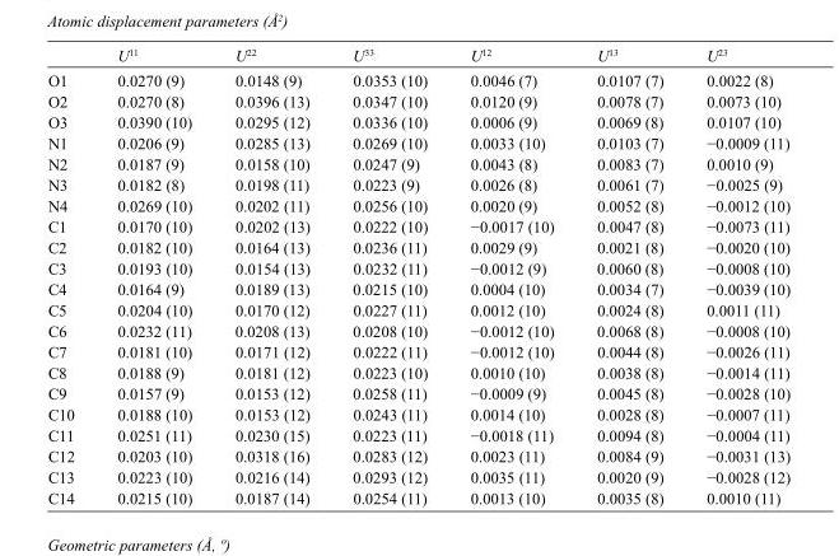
<table><thead><tr><td></td><td>U<sup>11</sup></td><td>U<sup>22</sup></td><td>U<sup>33</sup></td><td>U<sup>12</sup></td><td>U<sup>13</sup></td><td>U<sup>23</sup></td></tr></thead><tbody><tr><td>O1</td><td>0.0270 (9)</td><td>0.0148 (9)</td><td>0.0353 (10)</td><td>0.0046 (7)</td><td>0.0107 (7)</td><td>0.0022 (8)</td></tr><tr><td>O2</td><td>0.0270 (8)</td><td>0.0396 (13)</td><td>0.0347 (10)</td><td>0.0120 (9)</td><td>0.0078 (7)</td><td>0.0073 (10)</td></tr><tr><td>O3</td><td>0.0390 (10)</td><td>0.0295 (12)</td><td>0.0336 (10)</td><td>0.0006 (9)</td><td>0.0069 (8)</td><td>0.0107 (10)</td></tr><tr><td>N1</td><td>0.0206 (9)</td><td>0.0285 (13)</td><td>0.0269 (10)</td><td>0.0033 (10)</td><td>0.0103 (7)</td><td>−0.0009 (11)</td></tr><tr><td>N2</td><td>0.0187 (9)</td><td>0.0158 (10)</td><td>0.0247 (9)</td><td>0.0043 (8)</td><td>0.0083 (7)</td><td>0.0010 (9)</td></tr><tr><td>N3</td><td>0.0182 (8)</td><td>0.0198 (11)</td><td>0.0223 (9)</td><td>0.0026 (8)</td><td>0.0061 (7)</td><td>−0.0025 (9)</td></tr><tr><td>N4</td><td>0.0269 (10)</td><td>0.0202 (11)</td><td>0.0256 (10)</td><td>0.0020 (9)</td><td>0.0052 (8)</td><td>−0.0012 (10)</td></tr><tr><td>C1</td><td>0.0170 (10)</td><td>0.0202 (13)</td><td>0.0222 (10)</td><td>−0.0017 (10)</td><td>0.0047 (8)</td><td>−0.0073 (11)</td></tr><tr><td>C2</td><td>0.0182 (10)</td><td>0.0164 (13)</td><td>0.0236 (11)</td><td>0.0029 (9)</td><td>0.0021 (8)</td><td>−0.0020 (10)</td></tr><tr><td>C3</td><td>0.0193 (10)</td><td>0.0154 (13)</td><td>0.0232 (11)</td><td>−0.0012 (9)</td><td>0.0060 (8)</td><td>−0.0008 (10)</td></tr><tr><td>C4</td><td>0.0164 (9)</td><td>0.0189 (13)</td><td>0.0215 (10)</td><td>0.0004 (10)</td><td>0.0034 (7)</td><td>−0.0039 (10)</td></tr><tr><td>C5</td><td>0.0204 (10)</td><td>0.0170 (12)</td><td>0.0227 (11)</td><td>0.0012 (10)</td><td>0.0024 (8)</td><td>0.0011 (11)</td></tr><tr><td>C6</td><td>0.0232 (11)</td><td>0.0208 (13)</td><td>0.0208 (10)</td><td>−0.0012 (10)</td><td>0.0068 (8)</td><td>−0.0008 (10)</td></tr><tr><td>C7</td><td>0.0181 (10)</td><td>0.0171 (12)</td><td>0.0222 (11)</td><td>−0.0012 (10)</td><td>0.0044 (8)</td><td>−0.0026 (11)</td></tr><tr><td>C8</td><td>0.0188 (9)</td><td>0.0181 (12)</td><td>0.0223 (10)</td><td>0.0010 (10)</td><td>0.0038 (8)</td><td>−0.0014 (11)</td></tr><tr><td>C9</td><td>0.0157 (9)</td><td>0.0153 (12)</td><td>0.0258 (11)</td><td>−0.0009 (9)</td><td>0.0045 (8)</td><td>−0.0028 (10)</td></tr><tr><td>C10</td><td>0.0188 (10)</td><td>0.0153 (12)</td><td>0.0243 (11)</td><td>0.0014 (10)</td><td>0.0028 (8)</td><td>−0.0007 (11)</td></tr><tr><td>C11</td><td>0.0251 (11)</td><td>0.0230 (15)</td><td>0.0223 (11)</td><td>−0.0018 (11)</td><td>0.0094 (8)</td><td>−0.0004 (11)</td></tr><tr><td>C12</td><td>0.0203 (10)</td><td>0.0318 (16)</td><td>0.0283 (12)</td><td>0.0023 (11)</td><td>0.0084 (9)</td><td>−0.0031 (13)</td></tr><tr><td>C13</td><td>0.0223 (10)</td><td>0.0216 (14)</td><td>0.0293 (12)</td><td>0.0035 (11)</td><td>0.0020 (9)</td><td>−0.0028 (12)</td></tr><tr><td>C14</td><td>0.0215 (10)</td><td>0.0187 (14)</td><td>0.0254 (11)</td><td>0.0013 (10)</td><td>0.0035 (8)</td><td>0.0010 (11)</td></tr></tbody></table>